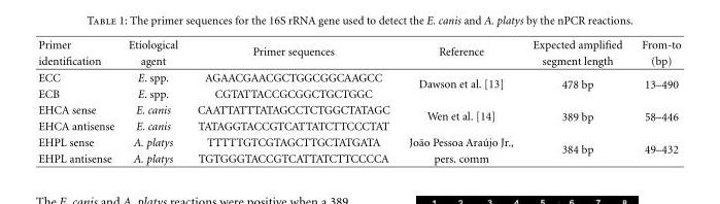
<table><thead><tr><td rowspan="2">Primer identification</td><td rowspan="2">Etiological agent</td><td rowspan="2">Primer sequences</td><td rowspan="2">Reference</td><td rowspan="2">Expected amplified segment length</td><td rowspan="2">From-to (bp)</td></tr><tr></tr></thead><tbody><tr><td>ECC</td><td>E. spp.</td><td>AGAACGAACGCTGGCGGCAAGCC</td><td rowspan="2">Dawson et al. [13]</td><td rowspan="2">478 bp</td><td rowspan="2">13–490</td></tr><tr><td>ECB</td><td>E. spp.</td><td>CGTATTACCGCGGCTGCTGGC</td></tr><tr><td>EHCA sense</td><td>E. canis</td><td>CAATTATTTATAGCCTCTGGCTATAGC</td><td rowspan="2">Wen et al. [14]</td><td rowspan="2">389 bp</td><td rowspan="2">58–446</td></tr><tr><td>EHCA antisense</td><td>E. canis</td><td>TATAGGTACCGTCATTATCTTCCCTAT</td></tr><tr><td>EHPL sense</td><td>A. platys</td><td>TTTTTGTCGTAGCTTGCTATGATA</td><td>Jo˜ao Pessoa Ara´ujo Jr.,</td><td rowspan="2">384 bp</td><td rowspan="2">49–432</td></tr><tr><td>EHPL antisense</td><td>A. platys</td><td>TGTGGGTACCGTCATTATCTTCCCCA</td><td>pers. comm</td></tr></tbody></table>